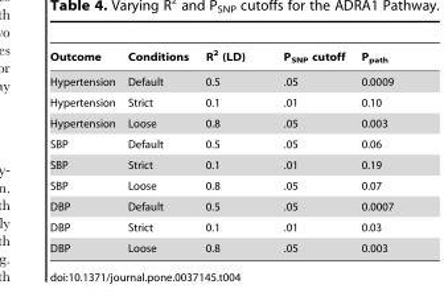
<table><thead><tr><td>Outcome</td><td>Conditions</td><td>R<sup>2</sup> (LD)</td><td>P<sub>SNP</sub> cutoff</td><td>P<sub>path</sub></td></tr></thead><tbody><tr><td>Hypertension</td><td>Default</td><td>0.5</td><td>.05</td><td>0.0009</td></tr><tr><td>Hypertension</td><td>Strict</td><td>0.1</td><td>.01</td><td>0.10</td></tr><tr><td>Hypertension</td><td>Loose</td><td>0.8</td><td>.05</td><td>0.003</td></tr><tr><td>SBP</td><td>Default</td><td>0.5</td><td>.05</td><td>0.06</td></tr><tr><td>SBP</td><td>Strict</td><td>0.1</td><td>.01</td><td>0.19</td></tr><tr><td>SBP</td><td>Loose</td><td>0.8</td><td>.05</td><td>0.07</td></tr><tr><td>DBP</td><td>Default</td><td>0.5</td><td>.05</td><td>0.0007</td></tr><tr><td>DBP</td><td>Strict</td><td>0.1</td><td>.01</td><td>0.03</td></tr><tr><td>DBP</td><td>Loose</td><td>0.8</td><td>.05</td><td>0.003</td></tr></tbody></table>